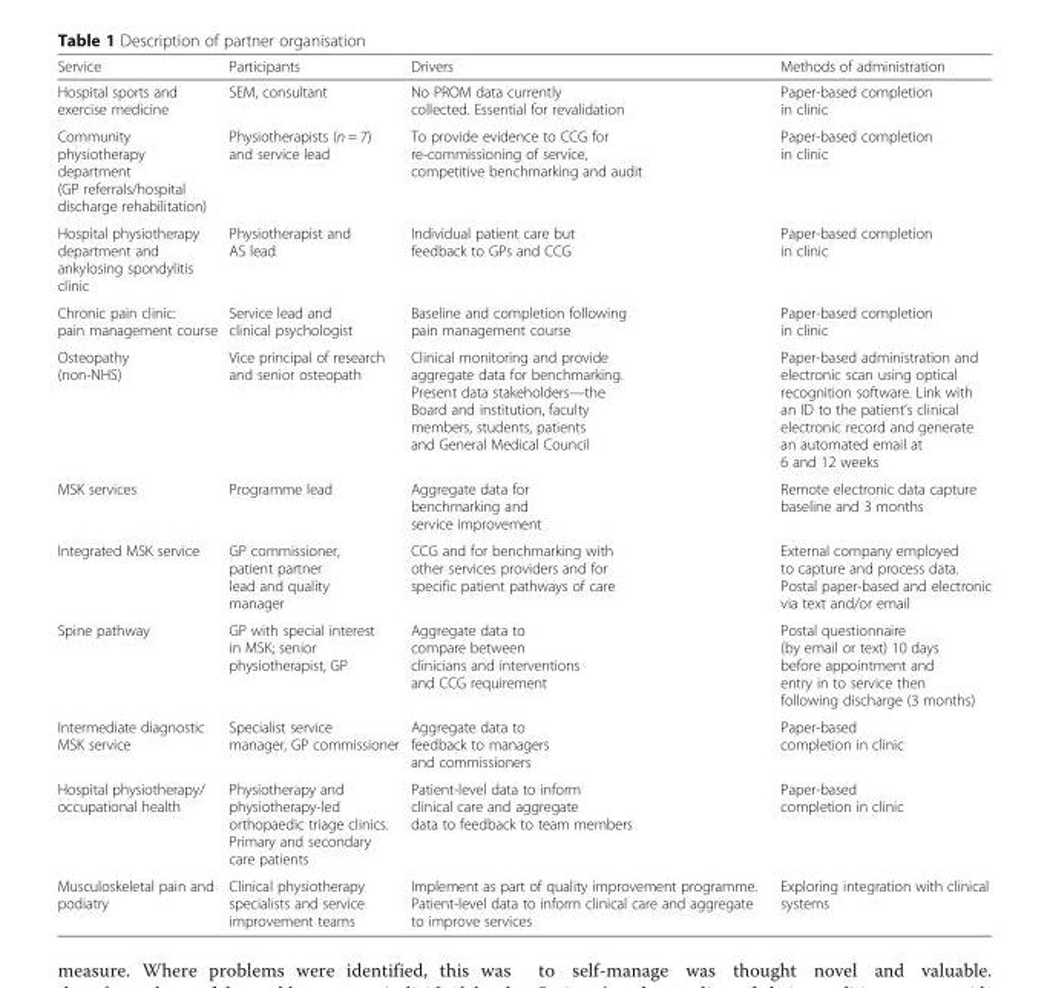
<table><thead><tr><td>Service</td><td>Participants</td><td>Drivers</td><td>Methods of administration</td></tr></thead><tbody><tr><td>Hospital sports and exercise medicine</td><td>SEM, consultant</td><td>No PROM data currently collected. Essential for revalidation</td><td>Paper-based completion in clinic</td></tr><tr><td>Community physiotherapy department (GP referrals/hospital discharge rehabilitation)</td><td>Physiotherapists (n = 7) and service lead</td><td>To provide evidence to CCG for re-commissioning of service, competitive benchmarking and audit</td><td>Paper-based completion in clinic</td></tr><tr><td>Hospital physiotherapy department and ankylosing spondylitis clinic</td><td>Physiotherapist and AS lead</td><td>Individual patient care but feedback to GPs and CCG</td><td>Paper-based completion in clinic</td></tr><tr><td>Chronic pain clinic: pain management course</td><td>Service lead and clinical psychologist</td><td>Baseline and completion following pain management course</td><td>Paper-based completion in clinic</td></tr><tr><td>Osteopathy (non-NHS)</td><td>Vice principal of research and senior osteopath</td><td>Clinical monitoring and provide aggregate data for benchmarking. Present data stakeholders—the Board and institution, faculty members, students, patients and General Medical Council</td><td>Paper-based administration and electronic scan using optical recognition software. Link with an ID to the patient’s clinical electronic record and generate an automated email at 6 and 12 weeks</td></tr><tr><td>MSK services</td><td>Programme lead</td><td>Aggregate data for benchmarking and service improvement</td><td>Remote electronic data capture baseline and 3 months</td></tr><tr><td>Integrated MSK service</td><td>GP commissioner, patient partner lead and quality manager</td><td>CCG and for benchmarking with other services providers and for specific patient pathways of care</td><td>External company employed to capture and process data. Postal paper-based and electronic via text and/or email</td></tr><tr><td>Spine pathway</td><td>GP with special interest in MSK; senior physiotherapist, GP</td><td>Aggregate data to compare between clinicians and interventions and CCG requirement</td><td>Postal questionnaire (by email or text) 10 days before appointment and entry in to service then following discharge (3 months)</td></tr><tr><td>Intermediate diagnostic MSK service</td><td>Specialist service manager, GP commissioner</td><td>Aggregate data to feedback to managers and commissioners</td><td>Paper-based completion in clinic</td></tr><tr><td>Hospital physiotherapy/ occupational health</td><td>Physiotherapy and physiotherapy-led orthopaedic triage clinics. Primary and secondary care patients</td><td>Patient-level data to inform clinical care and aggregate data to feedback to team members</td><td>Paper-based completion in clinic</td></tr><tr><td>Musculoskeletal pain and podiatry</td><td>Clinical physiotherapy specialists and service improvement teams</td><td>Implement as part of quality improvement programme. Patient-level data to inform clinical care and aggregate to improve services</td><td>Exploring integration with clinical systems</td></tr></tbody></table>